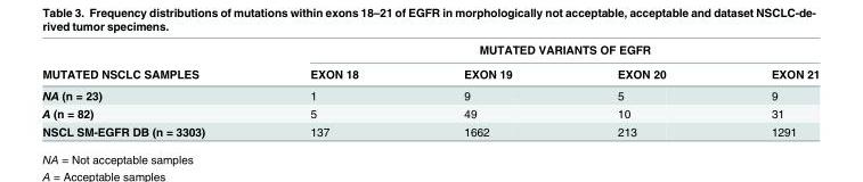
<table><thead><tr><td rowspan="2">MUTATED NSCLC SAMPLES</td><td colspan="4">MUTATED VARIANTS OF EGFR</td></tr><tr><td>EXON 18</td><td>EXON 19</td><td>EXON 20</td><td>EXON 21</td></tr></thead><tbody><tr><td>NA (n = 23)</td><td>1</td><td>9</td><td>5</td><td>9</td></tr><tr><td>A (n = 82)</td><td>5</td><td>49</td><td>10</td><td>31</td></tr><tr><td>NSCL SM-EGFR DB (n = 3303)</td><td>137</td><td>1662</td><td>213</td><td>1291</td></tr></tbody></table>